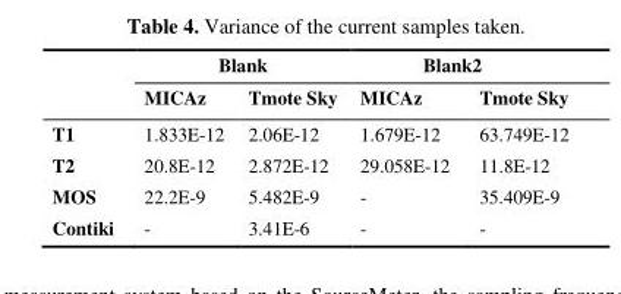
<table><thead><tr><td rowspan="2"></td><td colspan="2">Blank</td><td colspan="2">Blank2</td></tr><tr><td>MICAz</td><td>Tmote Sky</td><td>MICAz</td><td>Tmote Sky</td></tr></thead><tbody><tr><td>T1</td><td>1.833E-12</td><td>2.06E-12</td><td>1.679E-12</td><td>63.749E-12</td></tr><tr><td>T2</td><td>20.8E-12</td><td>2.872E-12</td><td>29.058E-12</td><td>11.8E-12</td></tr><tr><td>MOS</td><td>22.2E-9</td><td>5.482E-9</td><td>-</td><td>35.409E-9</td></tr><tr><td>Contiki</td><td>-</td><td>3.41E-6</td><td>-</td><td>-</td></tr></tbody></table>